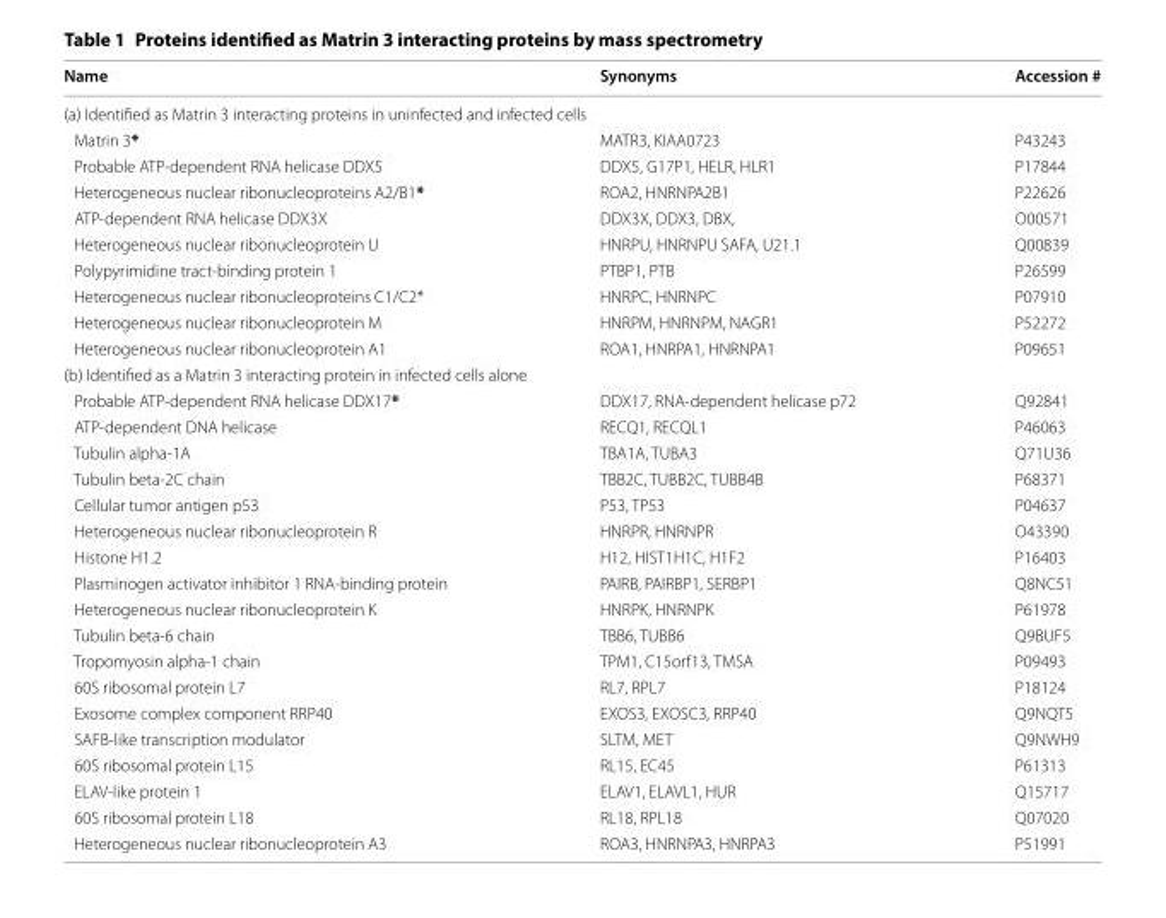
<table><thead><tr><td>Name</td><td>Synonyms</td><td>Accession #</td></tr></thead><tbody><tr><td colspan="3">(a) Identified as Matrin 3 interacting proteins in uninfected and infected cells</td></tr><tr><td>Matrin 3*</td><td>MATR3, KIAA0723</td><td>P43243</td></tr><tr><td>Probable ATP-dependent RNA helicase DDX5</td><td>DDX5, G17P1, HELR, HLR1</td><td>P17844</td></tr><tr><td>Heterogeneous nuclear ribonucleoproteins A2/B1*</td><td>ROA2, HNRNPA2B1</td><td>P22626</td></tr><tr><td>ATP-dependent RNA helicase DDX3X</td><td>DDX3X, DDX3, DBX,</td><td>O00571</td></tr><tr><td>Heterogeneous nuclear ribonucleoprotein U</td><td>HNRPU, HNRNPU SAFA, U21.1</td><td>Q00839</td></tr><tr><td>Polypyrimidine tract-binding protein 1</td><td>PTBP1, PTB</td><td>P26599</td></tr><tr><td>Heterogeneous nuclear ribonucleoproteins C1/C2*</td><td>HNRPC, HNRNPC</td><td>P07910</td></tr><tr><td>Heterogeneous nuclear ribonucleoprotein M</td><td>HNRPM, HNRNPM, NAGR1</td><td>P52272</td></tr><tr><td>Heterogeneous nuclear ribonucleoprotein A1</td><td>ROA1, HNRPA1, HNRNPA1</td><td>P09651</td></tr><tr><td colspan="3">(b) Identified as a Matrin 3 interacting protein in infected cells alone</td></tr><tr><td>Probable ATP-dependent RNA helicase DDX17*</td><td>DDX17, RNA-dependent helicase p72</td><td>Q92841</td></tr><tr><td>ATP-dependent DNA helicase</td><td>RECQ1, RECQL1</td><td>P46063</td></tr><tr><td>Tubulin alpha-1A</td><td>TBA1A, TUBA3</td><td>Q71U36</td></tr><tr><td>Tubulin beta-2C chain</td><td>TBB2C, TUBB2C, TUBB4B</td><td>P68371</td></tr><tr><td>Cellular tumor antigen p53</td><td>P53, TP53</td><td>P04637</td></tr><tr><td>Heterogeneous nuclear ribonucleoprotein R</td><td>HNRPR, HNRNPR</td><td>O43390</td></tr><tr><td>Histone H1.2</td><td>H12, HIST1H1C, H1F2</td><td>P16403</td></tr><tr><td>Plasminogen activator inhibitor 1 RNA-binding protein</td><td>PAIRB, PAIRBP1, SERBP1</td><td>Q8NC51</td></tr><tr><td>Heterogeneous nuclear ribonucleoprotein K</td><td>HNRPK, HNRNPK</td><td>P61978</td></tr><tr><td>Tubulin beta-6 chain</td><td>TBB6, TUBB6</td><td>Q9BUF5</td></tr><tr><td>Tropomyosin alpha-1 chain</td><td>TPM1, C15orf13, TMSA</td><td>P09493</td></tr><tr><td>60S ribosomal protein L7</td><td>RL7, RPL7</td><td>P18124</td></tr><tr><td>Exosome complex component RRP40</td><td>EXOS3, EXOSC3, RRP40</td><td>Q9NQT5</td></tr><tr><td>SAFB-like transcription modulator</td><td>SLTM, MET</td><td>Q9NWH9</td></tr><tr><td>60S ribosomal protein L15</td><td>RL15, EC45</td><td>P61313</td></tr><tr><td>ELAV-like protein 1</td><td>ELAV1, ELAVL1, HUR</td><td>Q15717</td></tr><tr><td>60S ribosomal protein L18</td><td>RL18, RPL18</td><td>Q07020</td></tr><tr><td>Heterogeneous nuclear ribonucleoprotein A3</td><td>ROA3, HNRNPA3, HNRPA3</td><td>P51991</td></tr></tbody></table>